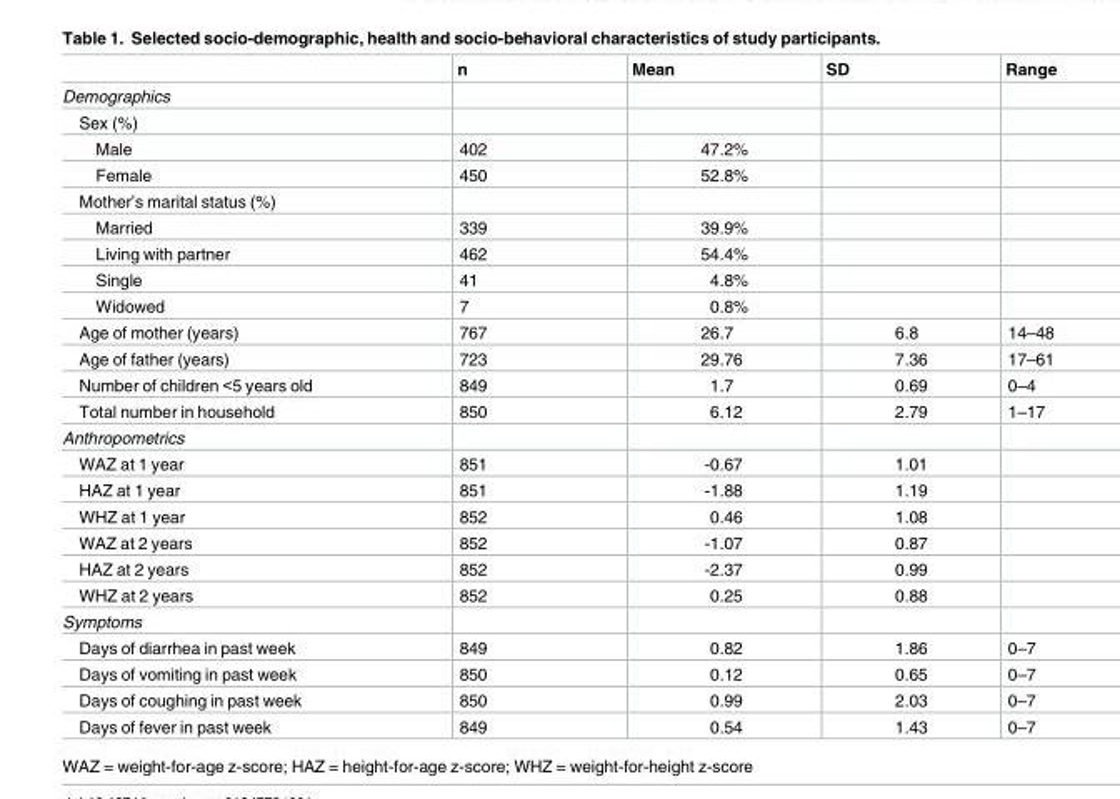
<table><thead><tr><td></td><td>n</td><td>Mean</td><td>SD</td><td>Range</td></tr></thead><tbody><tr><td colspan="5">Demographics</td></tr><tr><td colspan="5">Sex (%)</td></tr><tr><td>Male</td><td>402</td><td>47.2%</td><td></td><td></td></tr><tr><td>Female</td><td>450</td><td>52.8%</td><td></td><td></td></tr><tr><td colspan="5">Mother’s marital status (%)</td></tr><tr><td>Married</td><td>339</td><td>39.9%</td><td></td><td></td></tr><tr><td>Living with partner</td><td>462</td><td>54.4%</td><td></td><td></td></tr><tr><td>Single</td><td>41</td><td>4.8%</td><td></td><td></td></tr><tr><td>Widowed</td><td>7</td><td>0.8%</td><td></td><td></td></tr><tr><td>Age of mother (years)</td><td>767</td><td>26.7</td><td>6.8</td><td>14–48</td></tr><tr><td>Age of father (years)</td><td>723</td><td>29.76</td><td>7.36</td><td>17–61</td></tr><tr><td>Number of children &lt;5 years old</td><td>849</td><td>1.7</td><td>0.69</td><td>0–4</td></tr><tr><td>Total number in household</td><td>850</td><td>6.12</td><td>2.79</td><td>1–17</td></tr><tr><td colspan="5">Anthropometrics</td></tr><tr><td>WAZ at 1 year</td><td>851</td><td>-0.67</td><td>1.01</td><td></td></tr><tr><td>HAZ at 1 year</td><td>851</td><td>-1.88</td><td>1.19</td><td></td></tr><tr><td>WHZ at 1 year</td><td>852</td><td>0.46</td><td>1.08</td><td></td></tr><tr><td>WAZ at 2 years</td><td>852</td><td>-1.07</td><td>0.87</td><td></td></tr><tr><td>HAZ at 2 years</td><td>852</td><td>-2.37</td><td>0.99</td><td></td></tr><tr><td>WHZ at 2 years</td><td>852</td><td>0.25</td><td>0.88</td><td></td></tr><tr><td colspan="5">Symptoms</td></tr><tr><td>Days of diarrhea in past week</td><td>849</td><td>0.82</td><td>1.86</td><td>0–7</td></tr><tr><td>Days of vomiting in past week</td><td>850</td><td>0.12</td><td>0.65</td><td>0–7</td></tr><tr><td>Days of coughing in past week</td><td>850</td><td>0.99</td><td>2.03</td><td>0–7</td></tr><tr><td>Days of fever in past week</td><td>849</td><td>0.54</td><td>1.43</td><td>0–7</td></tr></tbody></table>